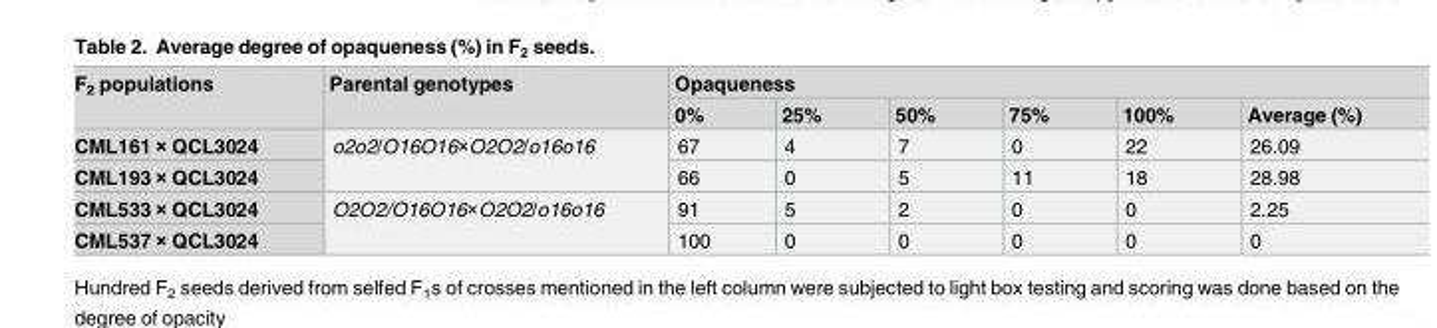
<table><thead><tr><td rowspan="2">F<sub>2</sub> populations</td><td rowspan="2">Parental genotypes</td><td colspan="6">Opaqueness</td></tr><tr><td>0%</td><td>25%</td><td>50%</td><td>75%</td><td>100%</td><td>Average (%)</td></tr></thead><tbody><tr><td>CML161 × QCL3024</td><td rowspan="2">o2o2/O16O16×O2O2/o16o16</td><td>67</td><td>4</td><td>7</td><td>0</td><td>22</td><td>26.09</td></tr><tr><td>CML193 × QCL3024</td><td>66</td><td>0</td><td>5</td><td>11</td><td>18</td><td>28.98</td></tr><tr><td>CML533 × QCL3024</td><td rowspan="2">O2O2/O16O16×O2O2/o16o16</td><td>91</td><td>5</td><td>2</td><td>0</td><td>0</td><td>2.25</td></tr><tr><td>CML537 × QCL3024</td><td>100</td><td>0</td><td>0</td><td>0</td><td>0</td><td>0</td></tr></tbody></table>